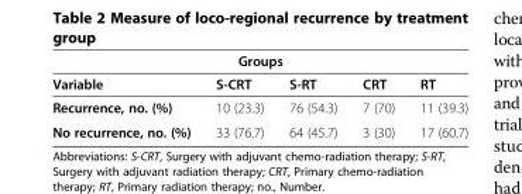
<table><thead><tr><td colspan="5">Groups</td></tr><tr><td>Variable</td><td>S-CRT</td><td>S-RT</td><td>CRT</td><td>RT</td></tr></thead><tbody><tr><td>Recurrence, no. (%)</td><td>10 (23.3)</td><td>76 (54.3)</td><td>7 (70)</td><td>11 (39.3)</td></tr><tr><td>No recurrence, no. (%)</td><td>33 (76.7)</td><td>64 (45.7)</td><td>3 (30)</td><td>17 (60.7)</td></tr></tbody></table>